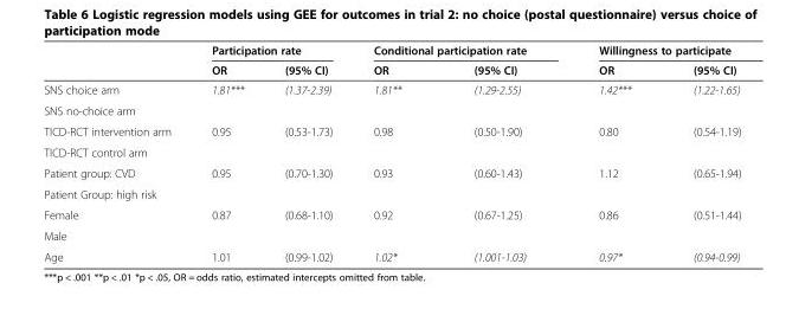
<table><thead><tr><td rowspan="2"></td><td colspan="2">Participation rate</td><td colspan="2">Conditional participation rate</td><td colspan="2">Willingness to participate</td></tr><tr><td>OR</td><td>(95% CI)</td><td>OR</td><td>(95% CI)</td><td>OR</td><td>(95% CI)</td></tr></thead><tbody><tr><td>SNS choice arm</td><td>1.81***</td><td>(1.37-2.39)</td><td>1.81**</td><td>(1.29-2.55)</td><td>1.42***</td><td>(1.22-1.65)</td></tr><tr><td colspan="7">SNS no-choice arm</td></tr><tr><td>TICD-RCT intervention arm</td><td>0.95</td><td>(0.53-1.73)</td><td>0.98</td><td>(0.50-1.90)</td><td>0.80</td><td>(0.54-1.19)</td></tr><tr><td colspan="7">TICD-RCT control arm</td></tr><tr><td>Patient group: CVD</td><td>0.95</td><td>(0.70-1.30)</td><td>0.93</td><td>(0.60-1.43)</td><td>1.12</td><td>(0.65-1.94)</td></tr><tr><td colspan="7">Patient Group: high risk</td></tr><tr><td>Female</td><td>0.87</td><td>(0.68-1.10)</td><td>0.92</td><td>(0.67-1.25)</td><td>0.86</td><td>(0.51-1.44)</td></tr><tr><td colspan="7">Male</td></tr><tr><td>Age</td><td>1.01</td><td>(0.99-1.02)</td><td>1.02*</td><td>(1.001-1.03)</td><td>0.97*</td><td>(0.94-0.99)</td></tr></tbody></table>